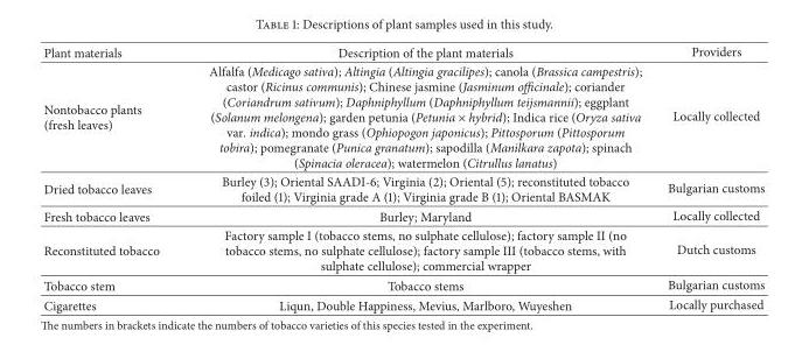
<table><thead><tr><td>Plant materials</td><td>Description of the plant materials</td><td>Providers</td></tr></thead><tbody><tr><td>Nontobacco plants (fresh leaves)</td><td>Alfalfa (Medicago sativa); Altingia (Altingia gracilipes); canola (Brassica campestris); castor (Ricinus communis); Chinese jasmine (Jasminum officinale); coriander (Coriandrum sativum); Daphniphyllum (Daphniphyllum teijsmannii); eggplant (Solanum melongena); garden petunia (Petunia × hybrid); Indica rice (Oryza sativa var. indica); mondo grass (Ophiopogon japonicus); Pittosporum (Pittosporum tobira); pomegranate (Punica granatum); sapodilla (Manilkara zapota); spinach (Spinacia oleracea); watermelon (Citrullus lanatus)</td><td>Locally collected</td></tr><tr><td>Dried tobacco leaves</td><td>Burley (3); Oriental SAADI-6; Virginia (2); Oriental (5); reconstituted tobacco foiled (1); Virginia grade A (1); Virginia grade B (1); Oriental BASMAK</td><td>Bulgarian customs</td></tr><tr><td>Fresh tobacco leaves</td><td>Burley; Maryland</td><td>Locally collected</td></tr><tr><td>Reconstituted tobacco</td><td>Factory sample I (tobacco stems, no sulphate cellulose); factory sample II (no tobacco stems, no sulphate cellulose); factory sample III (tobacco stems, with sulphate cellulose); commercial wrapper</td><td>Dutch customs</td></tr><tr><td>Tobacco stem</td><td>Tobacco stems</td><td>Bulgarian customs</td></tr><tr><td>Cigarettes</td><td>Liqun, Double Happiness, Mevius, Marlboro, Wuyeshen</td><td>Locally purchased</td></tr></tbody></table>